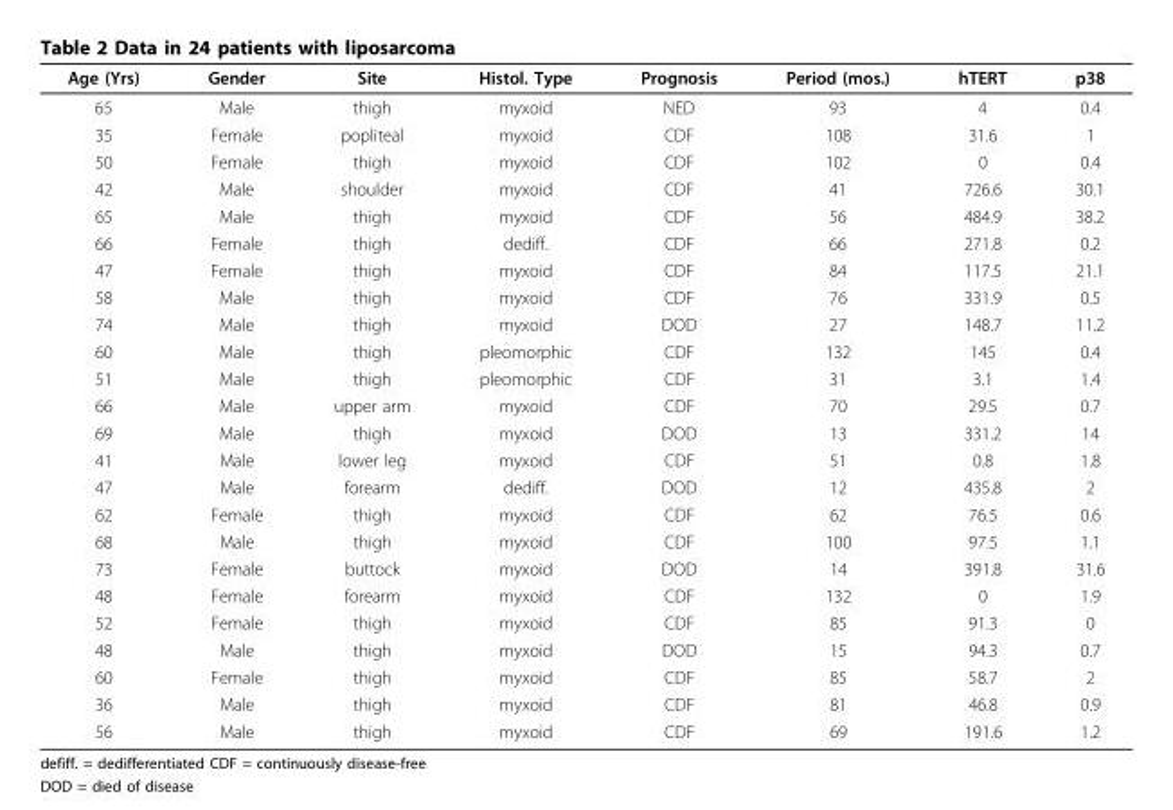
<table><thead><tr><td>Age (Yrs)</td><td>Gender</td><td>Site</td><td>Histol. Type</td><td>Prognosis</td><td>Period (mos.)</td><td>hTERT</td><td>p38</td></tr></thead><tbody><tr><td>65</td><td>Male</td><td>thigh</td><td>myxoid</td><td>NED</td><td>93</td><td>4</td><td>0.4</td></tr><tr><td>35</td><td>Female</td><td>popliteal</td><td>myxoid</td><td>CDF</td><td>108</td><td>31.6</td><td>1</td></tr><tr><td>50</td><td>Female</td><td>thigh</td><td>myxoid</td><td>CDF</td><td>102</td><td>0</td><td>0.4</td></tr><tr><td>42</td><td>Male</td><td>shoulder</td><td>myxoid</td><td>CDF</td><td>41</td><td>726.6</td><td>30.1</td></tr><tr><td>65</td><td>Male</td><td>thigh</td><td>myxoid</td><td>CDF</td><td>56</td><td>484.9</td><td>38.2</td></tr><tr><td>66</td><td>Female</td><td>thigh</td><td>dediff.</td><td>CDF</td><td>66</td><td>271.8</td><td>0.2</td></tr><tr><td>47</td><td>Female</td><td>thigh</td><td>myxoid</td><td>CDF</td><td>84</td><td>117.5</td><td>21.1</td></tr><tr><td>58</td><td>Male</td><td>thigh</td><td>myxoid</td><td>CDF</td><td>76</td><td>331.9</td><td>0.5</td></tr><tr><td>74</td><td>Male</td><td>thigh</td><td>myxoid</td><td>DOD</td><td>27</td><td>148.7</td><td>11.2</td></tr><tr><td>60</td><td>Male</td><td>thigh</td><td>pleomorphic</td><td>CDF</td><td>132</td><td>145</td><td>0.4</td></tr><tr><td>51</td><td>Male</td><td>thigh</td><td>pleomorphic</td><td>CDF</td><td>31</td><td>3.1</td><td>1.4</td></tr><tr><td>66</td><td>Male</td><td>upper arm</td><td>myxoid</td><td>CDF</td><td>70</td><td>29.5</td><td>0.7</td></tr><tr><td>69</td><td>Male</td><td>thigh</td><td>myxoid</td><td>DOD</td><td>13</td><td>331.2</td><td>14</td></tr><tr><td>41</td><td>Male</td><td>lower leg</td><td>myxoid</td><td>CDF</td><td>51</td><td>0.8</td><td>1.8</td></tr><tr><td>47</td><td>Male</td><td>forearm</td><td>dediff.</td><td>DOD</td><td>12</td><td>435.8</td><td>2</td></tr><tr><td>62</td><td>Female</td><td>thigh</td><td>myxoid</td><td>CDF</td><td>62</td><td>76.5</td><td>0.6</td></tr><tr><td>68</td><td>Male</td><td>thigh</td><td>myxoid</td><td>CDF</td><td>100</td><td>97.5</td><td>1.1</td></tr><tr><td>73</td><td>Female</td><td>buttock</td><td>myxoid</td><td>DOD</td><td>14</td><td>391.8</td><td>31.6</td></tr><tr><td>48</td><td>Female</td><td>forearm</td><td>myxoid</td><td>CDF</td><td>132</td><td>0</td><td>1.9</td></tr><tr><td>52</td><td>Female</td><td>thigh</td><td>myxoid</td><td>CDF</td><td>85</td><td>91.3</td><td>0</td></tr><tr><td>48</td><td>Male</td><td>thigh</td><td>myxoid</td><td>DOD</td><td>15</td><td>94.3</td><td>0.7</td></tr><tr><td>60</td><td>Female</td><td>thigh</td><td>myxoid</td><td>CDF</td><td>85</td><td>58.7</td><td>2</td></tr><tr><td>36</td><td>Male</td><td>thigh</td><td>myxoid</td><td>CDF</td><td>81</td><td>46.8</td><td>0.9</td></tr><tr><td>56</td><td>Male</td><td>thigh</td><td>myxoid</td><td>CDF</td><td>69</td><td>191.6</td><td>1.2</td></tr></tbody></table>